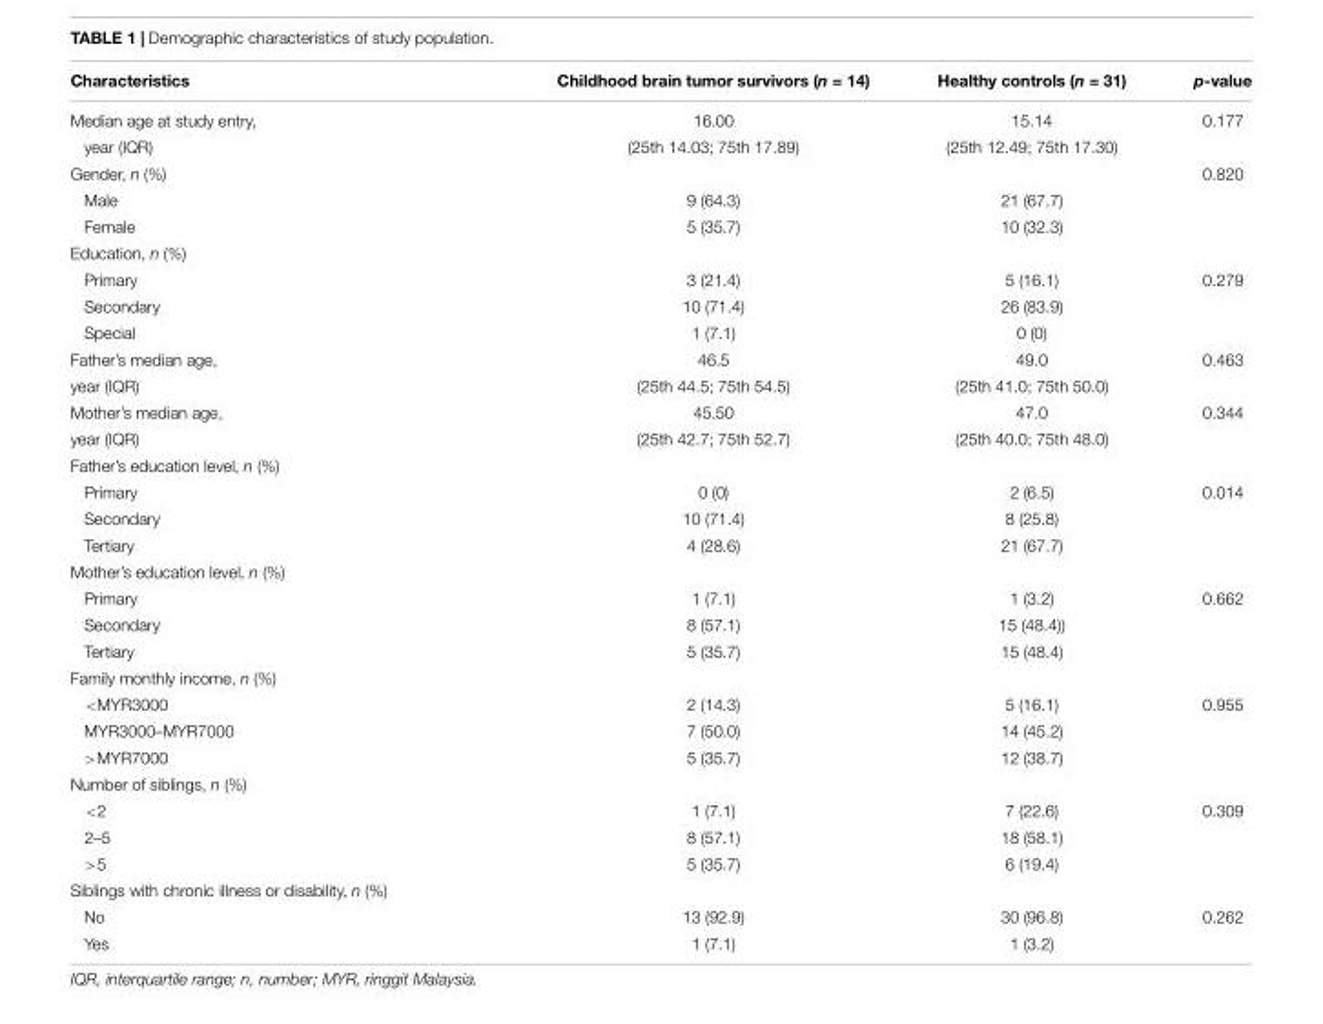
<table><thead><tr><td>Characteristics</td><td>Childhood brain tumor survivors (n = 14)</td><td>Healthy controls (n = 31)</td><td>p-value</td></tr></thead><tbody><tr><td>Median age at study entry,</td><td>16.00</td><td>15.14</td><td>0.177</td></tr><tr><td>year (IQR)</td><td>(25th 14.03; 75th 17.89)</td><td>(25th 12.49; 75th 17.30)</td><td></td></tr><tr><td>Gender, n (%)</td><td></td><td></td><td>0.820</td></tr><tr><td>Male</td><td>9 (64.3)</td><td>21 (67.7)</td><td></td></tr><tr><td>Female</td><td>5 (35.7)</td><td>10 (32.3)</td><td></td></tr><tr><td colspan="4">Education, n (%)</td></tr><tr><td>Primary</td><td>3 (21.4)</td><td>5 (16.1)</td><td>0.279</td></tr><tr><td>Secondary</td><td>10 (71.4)</td><td>26 (83.9)</td><td></td></tr><tr><td>Special</td><td>1 (7.1)</td><td>0 (0)</td><td></td></tr><tr><td>Father’s median age,</td><td>46.5</td><td>49.0</td><td>0.463</td></tr><tr><td>year (IQR)</td><td>(25th 44.5; 75th 54.5)</td><td>(25th 41.0; 75th 50.0)</td><td></td></tr><tr><td>Mother’s median age,</td><td>45.50</td><td>47.0</td><td>0.344</td></tr><tr><td>year (IQR)</td><td>(25th 42.7; 75th 52.7)</td><td>(25th 40.0; 75th 48.0)</td><td></td></tr><tr><td colspan="4">Father’s education level, n (%)</td></tr><tr><td>Primary</td><td>0 (0)</td><td>2 (6.5)</td><td>0.014</td></tr><tr><td>Secondary</td><td>10 (71.4)</td><td>8 (25.8)</td><td></td></tr><tr><td>Tertiary</td><td>4 (28.6)</td><td>21 (67.7)</td><td></td></tr><tr><td colspan="4">Mother’s education level, n (%)</td></tr><tr><td>Primary</td><td>1 (7.1)</td><td>1 (3.2)</td><td>0.662</td></tr><tr><td>Secondary</td><td>8 (57.1)</td><td>15 (48.4))</td><td></td></tr><tr><td>Tertiary</td><td>5 (35.7)</td><td>15 (48.4)</td><td></td></tr><tr><td colspan="4">Family monthly income, n (%)</td></tr><tr><td>&lt;MYR3000</td><td>2 (14.3)</td><td>5 (16.1)</td><td>0.955</td></tr><tr><td>MYR3000–MYR7000</td><td>7 (50.0)</td><td>14 (45.2)</td><td></td></tr><tr><td>&gt;MYR7000</td><td>5 (35.7)</td><td>12 (38.7)</td><td></td></tr><tr><td colspan="4">Number of siblings, n (%)</td></tr><tr><td>&lt;2</td><td>1 (7.1)</td><td>7 (22.6)</td><td>0.309</td></tr><tr><td>2–5</td><td>8 (57.1)</td><td>18 (58.1)</td><td></td></tr><tr><td>&gt;5</td><td>5 (35.7)</td><td>6 (19.4)</td><td></td></tr><tr><td colspan="4">Siblings with chronic illness or disability, n (%)</td></tr><tr><td>No</td><td>13 (92.9)</td><td>30 (96.8)</td><td>0.262</td></tr><tr><td>Yes</td><td>1 (7.1)</td><td>1 (3.2)</td><td></td></tr></tbody></table>